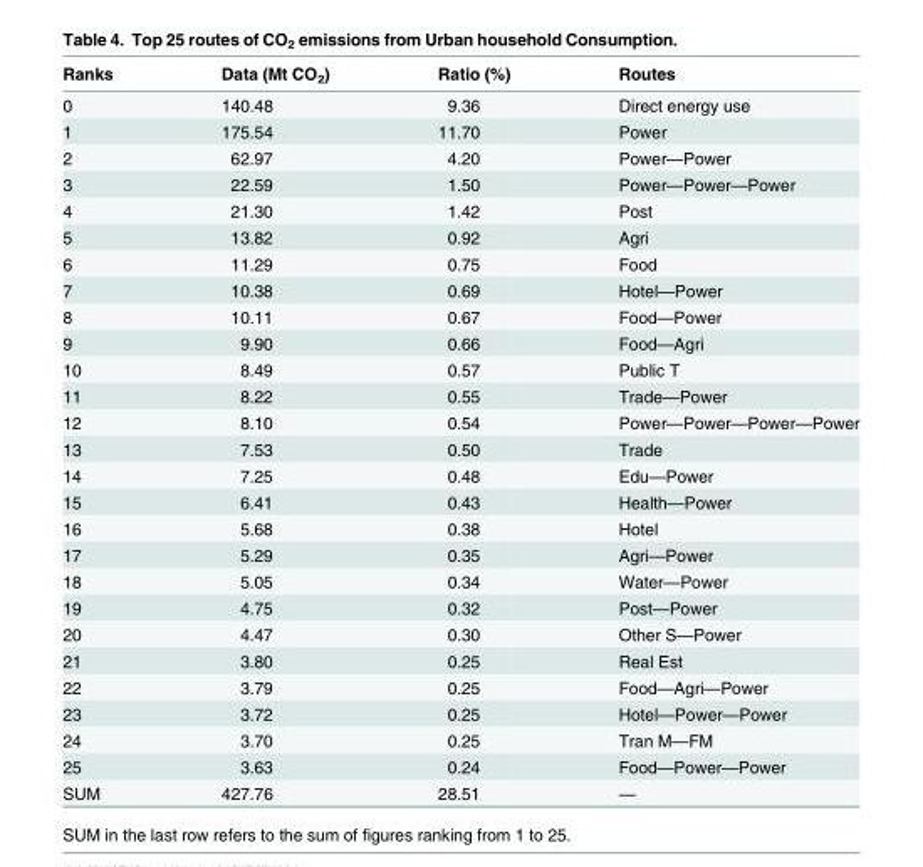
<table><thead><tr><td>Ranks</td><td>Data (Mt CO<sub>2</sub>)</td><td>Ratio (%)</td><td>Routes</td></tr></thead><tbody><tr><td>0</td><td>140.48</td><td>9.36</td><td>Direct energy use</td></tr><tr><td>1</td><td>175.54</td><td>11.70</td><td>Power</td></tr><tr><td>2</td><td>62.97</td><td>4.20</td><td>Power—Power</td></tr><tr><td>3</td><td>22.59</td><td>1.50</td><td>Power—Power—Power</td></tr><tr><td>4</td><td>21.30</td><td>1.42</td><td>Post</td></tr><tr><td>5</td><td>13.82</td><td>0.92</td><td>Agri</td></tr><tr><td>6</td><td>11.29</td><td>0.75</td><td>Food</td></tr><tr><td>7</td><td>10.38</td><td>0.69</td><td>Hotel—Power</td></tr><tr><td>8</td><td>10.11</td><td>0.67</td><td>Food—Power</td></tr><tr><td>9</td><td>9.90</td><td>0.66</td><td>Food—Agri</td></tr><tr><td>10</td><td>8.49</td><td>0.57</td><td>Public T</td></tr><tr><td>11</td><td>8.22</td><td>0.55</td><td>Trade—Power</td></tr><tr><td>12</td><td>8.10</td><td>0.54</td><td>Power—Power—Power—Power</td></tr><tr><td>13</td><td>7.53</td><td>0.50</td><td>Trade</td></tr><tr><td>14</td><td>7.25</td><td>0.48</td><td>Edu—Power</td></tr><tr><td>15</td><td>6.41</td><td>0.43</td><td>Health—Power</td></tr><tr><td>16</td><td>5.68</td><td>0.38</td><td>Hotel</td></tr><tr><td>17</td><td>5.29</td><td>0.35</td><td>Agri—Power</td></tr><tr><td>18</td><td>5.05</td><td>0.34</td><td>Water—Power</td></tr><tr><td>19</td><td>4.75</td><td>0.32</td><td>Post—Power</td></tr><tr><td>20</td><td>4.47</td><td>0.30</td><td>Other S—Power</td></tr><tr><td>21</td><td>3.80</td><td>0.25</td><td>Real Est</td></tr><tr><td>22</td><td>3.79</td><td>0.25</td><td>Food—Agri—Power</td></tr><tr><td>23</td><td>3.72</td><td>0.25</td><td>Hotel—Power—Power</td></tr><tr><td>24</td><td>3.70</td><td>0.25</td><td>Tran M—FM</td></tr><tr><td>25</td><td>3.63</td><td>0.24</td><td>Food—Power—Power</td></tr><tr><td>SUM</td><td>427.76</td><td>28.51</td><td>—</td></tr></tbody></table>